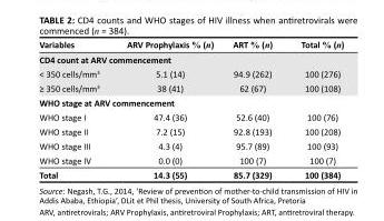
<table><thead><tr><td>Variables</td><td>ARV Prophylaxis % (n)</td><td>ART % (n)</td><td>Total % (n)</td></tr></thead><tbody><tr><td colspan="4">CD4 count at ARV commencement</td></tr><tr><td>&lt; 350 cells/mm<sup>3</sup></td><td>5.1 (14)</td><td>94.9 (262)</td><td>100 (276)</td></tr><tr><td>≥ 350 cells/mm<sup>3</sup></td><td>38 (41)</td><td>62 (67)</td><td>100 (108)</td></tr><tr><td colspan="4">WHO stage at ARV commencement</td></tr><tr><td>WHO stage I</td><td>47.4 (36)</td><td>52.6 (40)</td><td>100 (76)</td></tr><tr><td>WHO stage II</td><td>7.2 (15)</td><td>92.8 (193)</td><td>100 (208)</td></tr><tr><td>WHO stage III</td><td>4.3 (4)</td><td>95.7 (89)</td><td>100 (93)</td></tr><tr><td>WHO stage IV</td><td>0.0 (0)</td><td>100 (7)</td><td>100 (7)</td></tr><tr><td>Total</td><td>14.3 (55)</td><td>85.7 (329)</td><td>100 (384)</td></tr></tbody></table>